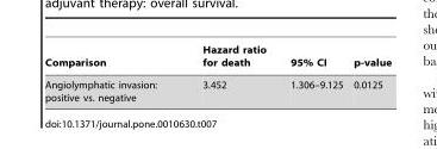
<table><thead><tr><td>Comparison</td><td>Hazard ratio for death</td><td>95% CI</td><td>p-value</td></tr></thead><tbody><tr><td>Angiolymphatic invasion: positive vs. negative</td><td>3.452</td><td>1.306–9.125</td><td>0.0125</td></tr></tbody></table>